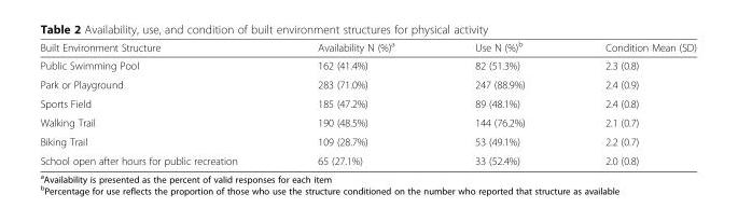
<table><thead><tr><td>Built Environment Structure</td><td>Availability N (%)<sup>a</sup></td><td>Use N (%)<sup>b</sup></td><td>Condition Mean (SD)</td></tr></thead><tbody><tr><td>Public Swimming Pool</td><td>162 (41.4%)</td><td>82 (51.3%)</td><td>2.3 (0.8)</td></tr><tr><td>Park or Playground</td><td>283 (71.0%)</td><td>247 (88.9%)</td><td>2.4 (0.9)</td></tr><tr><td>Sports Field</td><td>185 (47.2%)</td><td>89 (48.1%)</td><td>2.4 (0.8)</td></tr><tr><td>Walking Trail</td><td>190 (48.5%)</td><td>144 (76.2%)</td><td>2.1 (0.7)</td></tr><tr><td>Biking Trail</td><td>109 (28.7%)</td><td>53 (49.1%)</td><td>2.2 (0.7)</td></tr><tr><td>School open after hours for public recreation</td><td>65 (27.1%)</td><td>33 (52.4%)</td><td>2.0 (0.8)</td></tr></tbody></table>